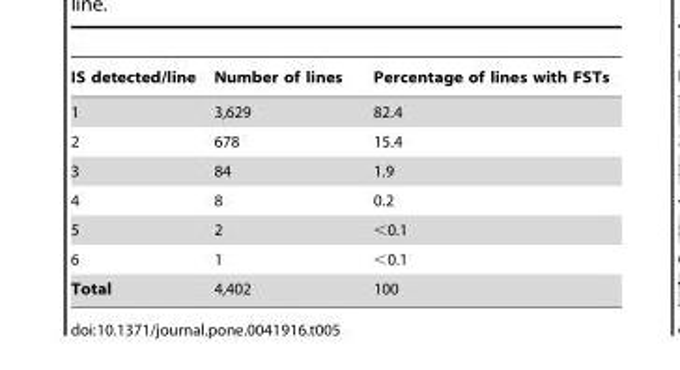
<table><thead><tr><td>IS detected/line</td><td>Number of lines</td><td>Percentage of lines with FSTs</td></tr></thead><tbody><tr><td>1</td><td>3,629</td><td>82.4</td></tr><tr><td>2</td><td>678</td><td>15.4</td></tr><tr><td>3</td><td>84</td><td>1.9</td></tr><tr><td>4</td><td>8</td><td>0.2</td></tr><tr><td>5</td><td>2</td><td>&lt;0.1</td></tr><tr><td>6</td><td>1</td><td>&lt;0.1</td></tr><tr><td>Total</td><td>4,402</td><td>100</td></tr></tbody></table>